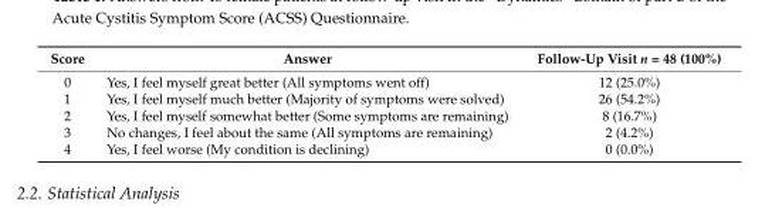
<table><thead><tr><td>Score</td><td>Answer</td><td>Follow-Up Visit n = 48 (100%)</td></tr></thead><tbody><tr><td>0</td><td>Yes, I feel myself great better (All symptoms went off)</td><td>12 (25.0%)</td></tr><tr><td>1</td><td>Yes, I feel myself much better (Majority of symptoms were solved)</td><td>26 (54.2%)</td></tr><tr><td>2</td><td>Yes, I feel myself somewhat better (Some symptoms are remaining)</td><td>8 (16.7%)</td></tr><tr><td>3</td><td>No changes, I feel about the same (All symptoms are remaining)</td><td>2 (4.2%)</td></tr><tr><td>4</td><td>Yes, I feel worse (My condition is declining)</td><td>0 (0.0%)</td></tr></tbody></table>